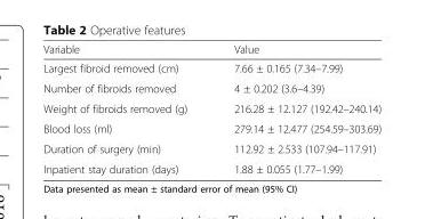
<table><thead><tr><td>Variable</td><td>Value</td></tr></thead><tbody><tr><td>Largest fibroid removed (cm)</td><td>7.66 ± 0.165 (7.34–7.99)</td></tr><tr><td>Number of fibroids removed</td><td>4 ± 0.202 (3.6–4.39)</td></tr><tr><td>Weight of fibroids removed (g)</td><td>216.28 ± 12.127 (192.42–240.14)</td></tr><tr><td>Blood loss (ml)</td><td>279.14 ± 12.477 (254.59–303.69)</td></tr><tr><td>Duration of surgery (min)</td><td>112.92 ± 2.533 (107.94–117.91)</td></tr><tr><td>Inpatient stay duration (days)</td><td>1.88 ± 0.055 (1.77–1.99)</td></tr></tbody></table>